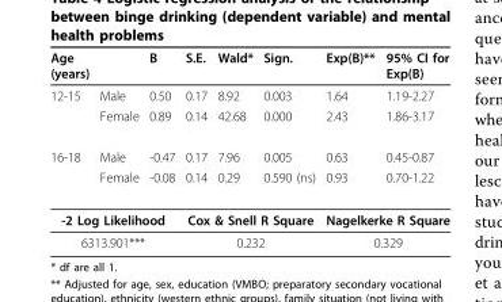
<table><thead><tr><td>Age (years)</td><td></td><td>B</td><td>S.E.</td><td>Wald*</td><td>Sign.</td><td>Exp(B)**</td><td>95% CI for Exp(B)</td></tr></thead><tbody><tr><td rowspan="2">12-15</td><td>Male</td><td>0.50</td><td>0.17</td><td>8.92</td><td>0.003</td><td>1.64</td><td>1.19-2.27</td></tr><tr><td>Female</td><td>0.89</td><td>0.14</td><td>42.68</td><td>0.000</td><td>2.43</td><td>1.86-3.17</td></tr><tr><td rowspan="2">16-18</td><td>Male</td><td>-0.47</td><td>0.17</td><td>7.96</td><td>0.005</td><td>0.63</td><td>0.45-0.87</td></tr><tr><td>Female</td><td>-0.08</td><td>0.14</td><td>0.29</td><td>0.590 (ns)</td><td>0.93</td><td>0.70-1.22</td></tr><tr><td colspan="3">-2 Log Likelihood</td><td colspan="3">Cox &amp; Snell R Square</td><td colspan="2">Nagelkerke R Square</td></tr><tr><td colspan="3">6313.901***</td><td colspan="3">0.232</td><td colspan="2">0.329</td></tr></tbody></table>